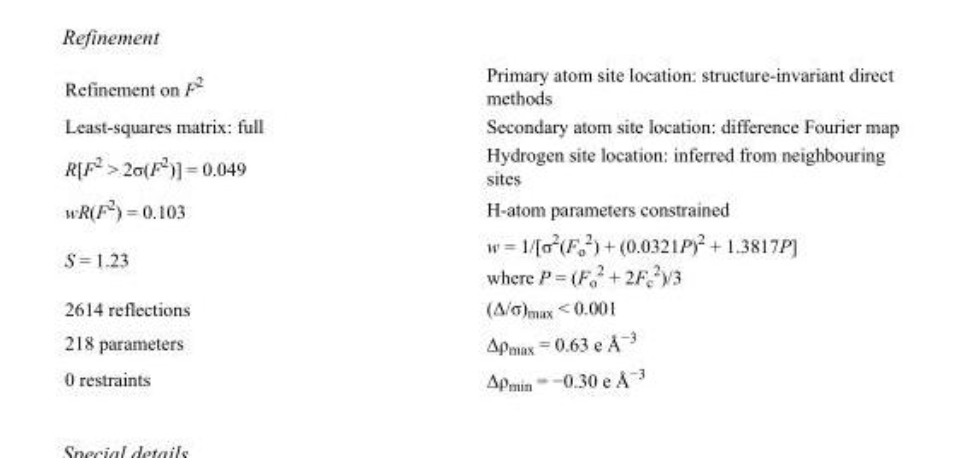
<table><tbody><tr><td>Refinement on F<sup>2</sup></td><td>Primary atom site location: structure-invariant direct methods</td></tr><tr><td>Least-squares matrix: full</td><td>Secondary atom site location: difference Fourier map</td></tr><tr><td>R[F<sup>2</sup> &gt; 2σ(F<sup>2</sup>)] = 0.049</td><td>Hydrogen site location: inferred from neighbouring sites</td></tr><tr><td>wR(F<sup>2</sup>) = 0.103</td><td>H-atom parameters constrained</td></tr><tr><td>S = 1.23</td><td>w = 1/[σ<sup>2</sup>(F<sub>o</sub> <sup>2</sup>) + (0.0321P)<sup>2</sup> + 1.3817P] where P = (F<sub>o</sub> <sup>2</sup> + 2F<sub>c</sub> <sup>2</sup>)/3</td></tr><tr><td>2614 reflections</td><td>(Δ/σ)<sub>max</sub> &lt; 0.001</td></tr><tr><td>218 parameters</td><td>Δρ<sub>max</sub> = 0.63 e Å<sup>−3</sup></td></tr><tr><td>0 restraints</td><td>Δρmin = −0.30 e Å−3</td></tr></tbody></table>